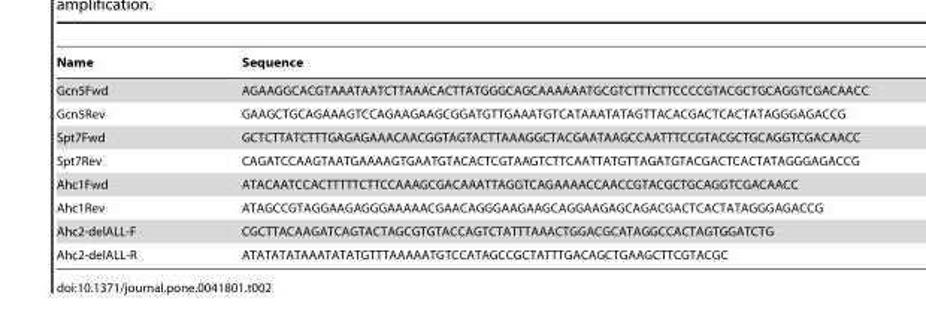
<table><thead><tr><td>Name</td><td>Sequence</td></tr></thead><tbody><tr><td>Gcn5Fwd</td><td>AGAAGGCACGTAAATAATCTTAAACACTTATGGGCAGCAAAAAATGCGTCTTTCTTCCCCGTACGCTGCAGGTCGACAACC</td></tr><tr><td>Gcn5Rev</td><td>GAAGCTGCAGAAAGTCCAGAAGAAGCGGATGTTGAAATGTCATAAATATAGTTACACGACTCACTATAGGGAGACCG</td></tr><tr><td>Spt7Fwd</td><td>GCTCTTATCTTTGAGAGAAACAACGGTAGTACTTAAAGGCTACGAATAAGCCAATTTCCGTACGCTGCAGGTCGACAACC</td></tr><tr><td>Spt7Rev</td><td>CAGATCCAAGTAATGAAAAGTGAATGTACACTCGTAAGTCTTCAATTATGTTAGATGTACGACTCACTATAGGGAGACCG</td></tr><tr><td>Ahc1Fwd</td><td>ATACAATCCACTTTTTCTTCCAAAGCGACAAATTAGGTCAGAAAACCAACCGTACGCTGCAGGTCGACAACC</td></tr><tr><td>Ahc1Rev</td><td>ATAGCCGTAGGAAGAGGGAAAAACGAACAGGGAAGAAGCAGGAAGAGCAGACGACTCACTATAGGGAGACCG</td></tr><tr><td>Ahc2-delALL-F</td><td>CGCTTACAAGATCAGTACTAGCGTGTACCAGTCTATTTAAACTGGACGCATAGGCCACTAGTGGATCTG</td></tr><tr><td>Ahc2-delALL-R</td><td>ATATATATAAATATATGTTTAAAAATGTCCATAGCCGCTATTTGACAGCTGAAGCTTCGTACGC</td></tr></tbody></table>